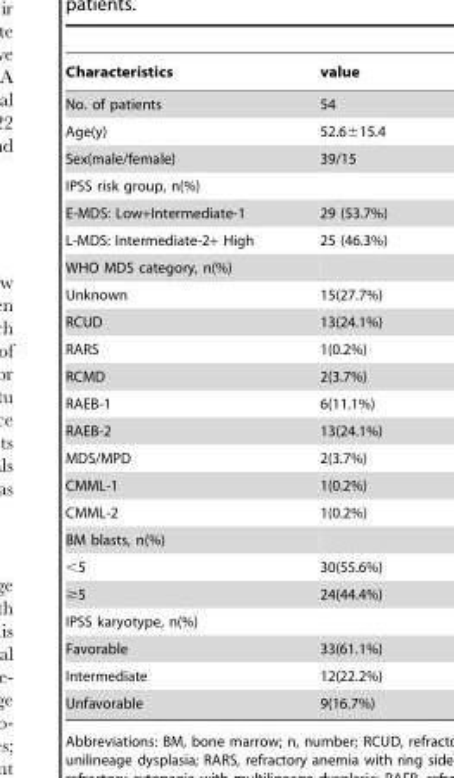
<table><thead><tr><td>Characteristics</td><td>value</td></tr></thead><tbody><tr><td>No. of patients</td><td>54</td></tr><tr><td>Age(y)</td><td>52.6±15.4</td></tr><tr><td>Sex(male/female)</td><td>39/15</td></tr><tr><td colspan="2">IPSS risk group, n(%)</td></tr><tr><td>E-MDS: Low+Intermediate-1</td><td>29 (53.7%)</td></tr><tr><td>L-MDS: Intermediate-2+ High</td><td>25 (46.3%)</td></tr><tr><td colspan="2">WHO MDS category, n(%)</td></tr><tr><td>Unknown</td><td>15(27.7%)</td></tr><tr><td>RCUD</td><td>13(24.1%)</td></tr><tr><td>RARS</td><td>1(0.2%)</td></tr><tr><td>RCMD</td><td>2(3.7%)</td></tr><tr><td>RAEB-1</td><td>6(11.1%)</td></tr><tr><td>RAEB-2</td><td>13(24.1%)</td></tr><tr><td>MDS/MPD</td><td>2(3.7%)</td></tr><tr><td>CMML-1</td><td>1(0.2%)</td></tr><tr><td>CMML-2</td><td>1(0.2%)</td></tr><tr><td colspan="2">BM blasts, n(%)</td></tr><tr><td>&lt;5</td><td>30(55.6%)</td></tr><tr><td>≥5</td><td>24(44.4%)</td></tr><tr><td colspan="2">IPSS karyotype, n(%)</td></tr><tr><td>Favorable</td><td>33(61.1%)</td></tr><tr><td>Intermediate</td><td>12(22.2%)</td></tr><tr><td>Unfavorable</td><td>9(16.7%)</td></tr></tbody></table>